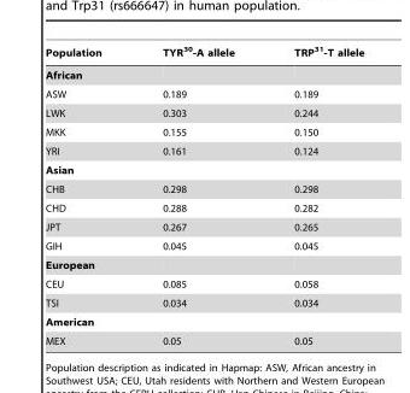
<table><thead><tr><td>Population</td><td>TYR<sup>30</sup>-A allele</td><td>TRP<sup>31</sup>-T allele</td></tr></thead><tbody><tr><td colspan="3">African</td></tr><tr><td>ASW</td><td>0.189</td><td>0.189</td></tr><tr><td>LWK</td><td>0.303</td><td>0.244</td></tr><tr><td>MKK</td><td>0.155</td><td>0.150</td></tr><tr><td>YRI</td><td>0.161</td><td>0.124</td></tr><tr><td colspan="3">Asian</td></tr><tr><td>CHB</td><td>0.298</td><td>0.298</td></tr><tr><td>CHD</td><td>0.288</td><td>0.282</td></tr><tr><td>JPT</td><td>0.267</td><td>0.265</td></tr><tr><td>GIH</td><td>0.045</td><td>0.045</td></tr><tr><td colspan="3">European</td></tr><tr><td>CEU</td><td>0.085</td><td>0.058</td></tr><tr><td>TSI</td><td>0.034</td><td>0.034</td></tr><tr><td colspan="3">American</td></tr><tr><td>MEX</td><td>0.05</td><td>0.05</td></tr></tbody></table>